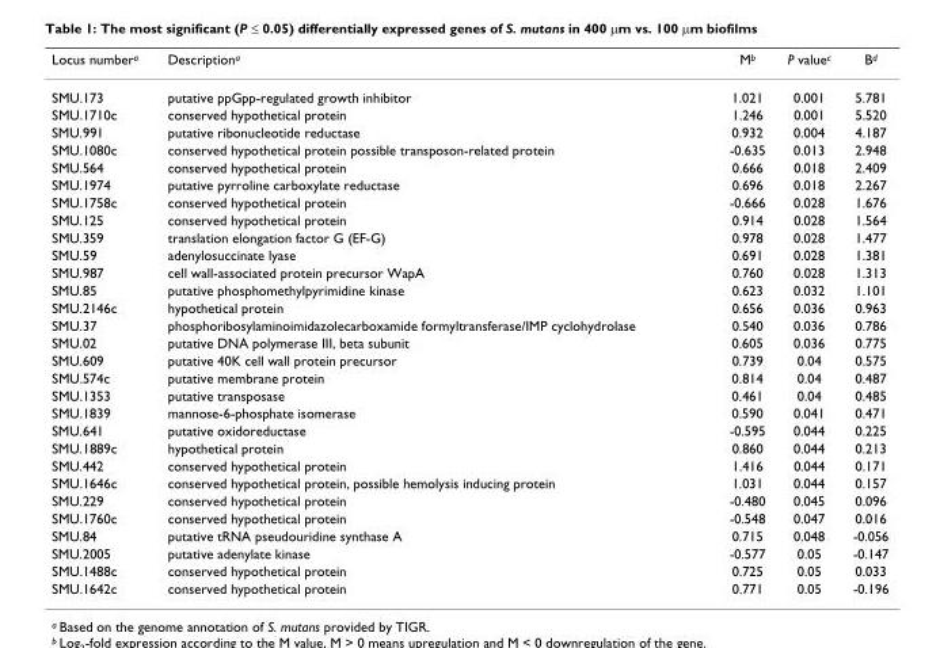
<table><thead><tr><td>Locus number<sup>a</sup></td><td>Description<sup>a</sup></td><td>M<sup>b</sup></td><td>P value<sup>c</sup></td><td>B<sup>d</sup></td></tr></thead><tbody><tr><td>SMU.173</td><td>putative ppGpp-regulated growth inhibitor</td><td>1.021</td><td>0.001</td><td>5.781</td></tr><tr><td>SMU.1710c</td><td>conserved hypothetical protein</td><td>1.246</td><td>0.001</td><td>5.520</td></tr><tr><td>SMU.991</td><td>putative ribonucleotide reductase</td><td>0.932</td><td>0.004</td><td>4.187</td></tr><tr><td>SMU.1080c</td><td>conserved hypothetical protein possible transposon-related protein</td><td>-0.635</td><td>0.013</td><td>2.948</td></tr><tr><td>SMU.564</td><td>conserved hypothetical protein</td><td>0.666</td><td>0.018</td><td>2.409</td></tr><tr><td>SMU.1974</td><td>putative pyrroline carboxylate reductase</td><td>0.696</td><td>0.018</td><td>2.267</td></tr><tr><td>SMU.1758c</td><td>conserved hypothetical protein</td><td>-0.666</td><td>0.028</td><td>1.676</td></tr><tr><td>SMU.125</td><td>conserved hypothetical protein</td><td>0.914</td><td>0.028</td><td>1.564</td></tr><tr><td>SMU.359</td><td>translation elongation factor G (EF-G)</td><td>0.978</td><td>0.028</td><td>1.477</td></tr><tr><td>SMU.59</td><td>adenylosuccinate lyase</td><td>0.691</td><td>0.028</td><td>1.381</td></tr><tr><td>SMU.987</td><td>cell wall-associated protein precursor WapA</td><td>0.760</td><td>0.028</td><td>1.313</td></tr><tr><td>SMU.85</td><td>putative phosphomethylpyrimidine kinase</td><td>0.623</td><td>0.032</td><td>1.101</td></tr><tr><td>SMU.2146c</td><td>hypothetical protein</td><td>0.656</td><td>0.036</td><td>0.963</td></tr><tr><td>SMU.37</td><td>phosphoribosylaminoimidazolecarboxamide formyltransferase/IMP cyclohydrolase</td><td>0.540</td><td>0.036</td><td>0.786</td></tr><tr><td>SMU.02</td><td>putative DNA polymerase III, beta subunit</td><td>0.605</td><td>0.036</td><td>0.775</td></tr><tr><td>SMU.609</td><td>putative 40K cell wall protein precursor</td><td>0.739</td><td>0.04</td><td>0.575</td></tr><tr><td>SMU.574c</td><td>putative membrane protein</td><td>0.814</td><td>0.04</td><td>0.487</td></tr><tr><td>SMU.1353</td><td>putative transposase</td><td>0.461</td><td>0.04</td><td>0.485</td></tr><tr><td>SMU.1839</td><td>mannose-6-phosphate isomerase</td><td>0.590</td><td>0.041</td><td>0.471</td></tr><tr><td>SMU.641</td><td>putative oxidoreductase</td><td>-0.595</td><td>0.044</td><td>0.225</td></tr><tr><td>SMU.1889c</td><td>hypothetical protein</td><td>0.860</td><td>0.044</td><td>0.213</td></tr><tr><td>SMU.442</td><td>conserved hypothetical protein</td><td>1.416</td><td>0.044</td><td>0.171</td></tr><tr><td>SMU.1646c</td><td>conserved hypothetical protein, possible hemolysis inducing protein</td><td>1.031</td><td>0.044</td><td>0.157</td></tr><tr><td>SMU.229</td><td>conserved hypothetical protein</td><td>-0.480</td><td>0.045</td><td>0.096</td></tr><tr><td>SMU.1760c</td><td>conserved hypothetical protein</td><td>-0.548</td><td>0.047</td><td>0.016</td></tr><tr><td>SMU.84</td><td>putative tRNA pseudouridine synthase A</td><td>0.715</td><td>0.048</td><td>-0.056</td></tr><tr><td>SMU.2005</td><td>putative adenylate kinase</td><td>-0.577</td><td>0.05</td><td>-0.147</td></tr><tr><td>SMU.1488c</td><td>conserved hypothetical protein</td><td>0.725</td><td>0.05</td><td>0.033</td></tr><tr><td>SMU.1642c</td><td>conserved hypothetical protein</td><td>0.771</td><td>0.05</td><td>-0.196</td></tr></tbody></table>